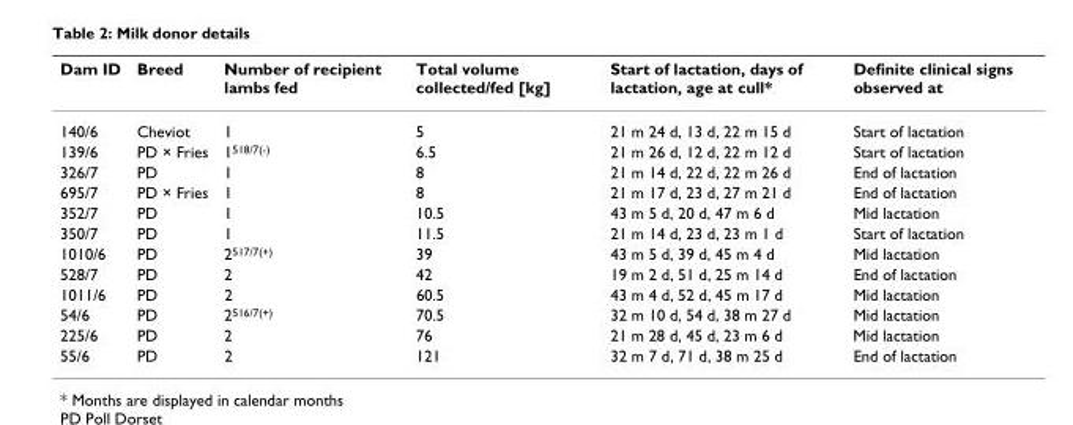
<table><thead><tr><td>Dam ID</td><td>Breed</td><td>Number of recipient lambs fed</td><td>Total volume collected/fed [kg]</td><td>Start of lactation, days of lactation, age at cull*</td><td>Definite clinical signs observed at</td></tr></thead><tbody><tr><td>140/6</td><td>Cheviot</td><td>1</td><td>5</td><td>21 m 24 d, 13 d, 22 m 15 d</td><td>Start of lactation</td></tr><tr><td>139/6</td><td>PD × Fries</td><td>1<sup>518/7(-)</sup></td><td>6.5</td><td>21 m 26 d, 12 d, 22 m 12 d</td><td>Start of lactation</td></tr><tr><td>326/7</td><td>PD</td><td>1</td><td>8</td><td>21 m 14 d, 22 d, 22 m 26 d</td><td>End of lactation</td></tr><tr><td>695/7</td><td>PD × Fries</td><td>1</td><td>8</td><td>21 m 17 d, 23 d, 27 m 21 d</td><td>End of lactation</td></tr><tr><td>352/7</td><td>PD</td><td>1</td><td>10.5</td><td>43 m 5 d, 20 d, 47 m 6 d</td><td>Mid lactation</td></tr><tr><td>350/7</td><td>PD</td><td>1</td><td>11.5</td><td>21 m 14 d, 23 d, 23 m 1 d</td><td>Start of lactation</td></tr><tr><td>1010/6</td><td>PD</td><td>2<sup>517/7(+)</sup></td><td>39</td><td>43 m 5 d, 39 d, 45 m 4 d</td><td>Mid lactation</td></tr><tr><td>528/7</td><td>PD</td><td>2</td><td>42</td><td>19 m 2 d, 51 d, 25 m 14 d</td><td>End of lactation</td></tr><tr><td>1011/6</td><td>PD</td><td>2</td><td>60.5</td><td>43 m 4 d, 52 d, 45 m 17 d</td><td>Mid lactation</td></tr><tr><td>54/6</td><td>PD</td><td>2<sup>516/7(+)</sup></td><td>70.5</td><td>32 m 10 d, 54 d, 38 m 27 d</td><td>Mid lactation</td></tr><tr><td>225/6</td><td>PD</td><td>2</td><td>76</td><td>21 m 28 d, 45 d, 23 m 6 d</td><td>Mid lactation</td></tr><tr><td>55/6</td><td>PD</td><td>2</td><td>121</td><td>32 m 7 d, 71 d, 38 m 25 d</td><td>End of lactation</td></tr></tbody></table>